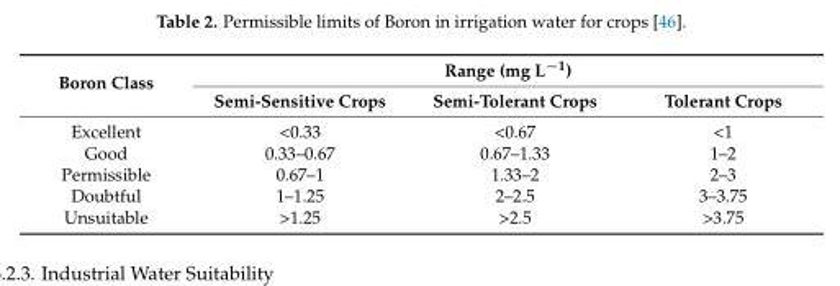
<table><thead><tr><td rowspan="2">Boron Class</td><td colspan="3">Range (mg L<sup>−1</sup>)</td></tr><tr><td>Semi-Sensitive Crops</td><td>Semi-Tolerant Crops</td><td>Tolerant Crops</td></tr></thead><tbody><tr><td>Excellent</td><td>&lt;0.33</td><td>&lt;0.67</td><td>&lt;1</td></tr><tr><td>Good</td><td>0.33–0.67</td><td>0.67–1.33</td><td>1–2</td></tr><tr><td>Permissible</td><td>0.67–1</td><td>1.33–2</td><td>2–3</td></tr><tr><td>Doubtful</td><td>1–1.25</td><td>2–2.5</td><td>3–3.75</td></tr><tr><td>Unsuitable</td><td>&gt;1.25</td><td>&gt;2.5</td><td>&gt;3.75</td></tr></tbody></table>